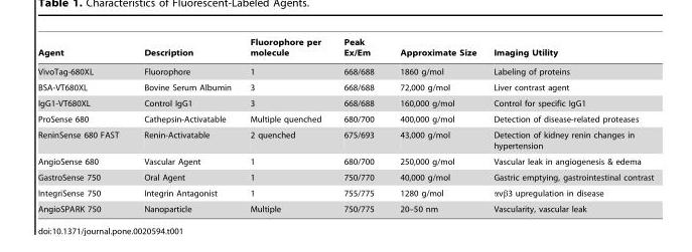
<table><thead><tr><td>Agent</td><td>Description</td><td>Fluorophore per molecule</td><td>Peak Ex/Em</td><td>Approximate Size</td><td>Imaging Utility</td></tr></thead><tbody><tr><td>VivoTag-680XL</td><td>Fluorophore</td><td>1</td><td>668/688</td><td>1860 g/mol</td><td>Labeling of proteins</td></tr><tr><td>BSA-VT680XL</td><td>Bovine Serum Albumin</td><td>3</td><td>668/688</td><td>72,000 g/mol</td><td>Liver contrast agent</td></tr><tr><td>IgG1-VT680XL</td><td>Control IgG1</td><td>3</td><td>668/688</td><td>160,000 g/mol</td><td>Control for specific IgG1</td></tr><tr><td>ProSense 680</td><td>Cathepsin-Activatable</td><td>Multiple quenched</td><td>680/700</td><td>400,000 g/mol</td><td>Detection of disease-related proteases</td></tr><tr><td>ReninSense 680 FAST</td><td>Renin-Activatable</td><td>2 quenched</td><td>675/693</td><td>43,000 g/mol</td><td>Detection of kidney renin changes in hypertension</td></tr><tr><td>AngioSense 680</td><td>Vascular Agent</td><td>1</td><td>680/700</td><td>250,000 g/mol</td><td>Vascular leak in angiogenesis &amp; edema</td></tr><tr><td>GastroSense 750</td><td>Oral Agent</td><td>1</td><td>750/770</td><td>40,000 g/mol</td><td>Gastric emptying, gastrointestinal contrast</td></tr><tr><td>IntegriSense 750</td><td>Integrin Antagonist</td><td>1</td><td>755/775</td><td>1280 g/mol</td><td>αvβ3 upregulation in disease</td></tr><tr><td>AngioSPARK 750</td><td>Nanoparticle</td><td>Multiple</td><td>750/775</td><td>20–50 nm</td><td>Vascularity, vascular leak</td></tr></tbody></table>